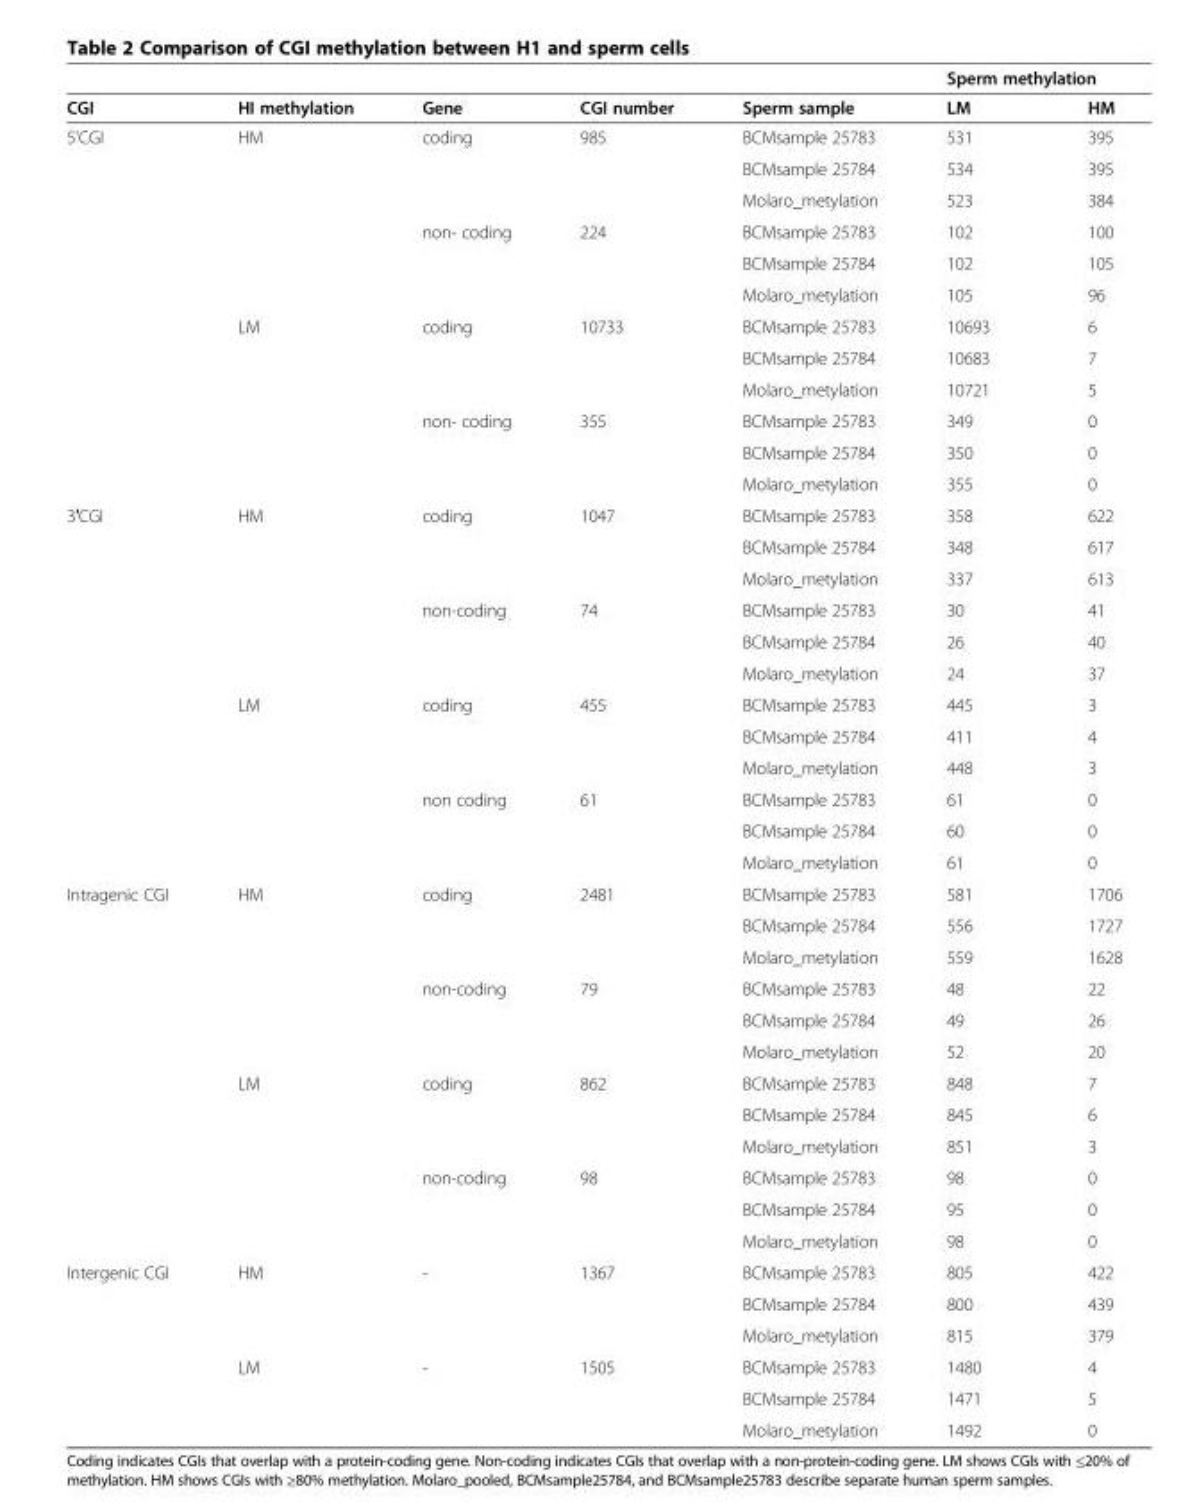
<table><thead><tr><td rowspan="2">CGI</td><td rowspan="2">HI methylation</td><td rowspan="2">Gene</td><td rowspan="2">CGI number</td><td rowspan="2">Sperm sample</td><td colspan="2">Sperm methylation</td></tr><tr><td>LM</td><td>HM</td></tr></thead><tbody><tr><td rowspan="12">5&#x27;CGI</td><td rowspan="6">HM</td><td rowspan="3">coding</td><td rowspan="3">985</td><td>BCMsample 25783</td><td>531</td><td>395</td></tr><tr><td>BCMsample 25784</td><td>534</td><td>395</td></tr><tr><td>Molaro_metylation</td><td>523</td><td>384</td></tr><tr><td rowspan="3">non- coding</td><td rowspan="3">224</td><td>BCMsample 25783</td><td>102</td><td>100</td></tr><tr><td>BCMsample 25784</td><td>102</td><td>105</td></tr><tr><td>Molaro_metylation</td><td>105</td><td>96</td></tr><tr><td rowspan="6">LM</td><td rowspan="3">coding</td><td rowspan="3">10733</td><td>BCMsample 25783</td><td>10693</td><td>6</td></tr><tr><td>BCMsample 25784</td><td>10683</td><td>7</td></tr><tr><td>Molaro_metylation</td><td>10721</td><td>5</td></tr><tr><td rowspan="3">non- coding</td><td rowspan="3">355</td><td>BCMsample 25783</td><td>349</td><td>0</td></tr><tr><td>BCMsample 25784</td><td>350</td><td>0</td></tr><tr><td>Molaro_metylation</td><td>355</td><td>0</td></tr><tr><td rowspan="12">3′CGI</td><td rowspan="6">HM</td><td rowspan="3">coding</td><td rowspan="3">1047</td><td>BCMsample 25783</td><td>358</td><td>622</td></tr><tr><td>BCMsample 25784</td><td>348</td><td>617</td></tr><tr><td>Molaro_metylation</td><td>337</td><td>613</td></tr><tr><td rowspan="3">non-coding</td><td rowspan="3">74</td><td>BCMsample 25783</td><td>30</td><td>41</td></tr><tr><td>BCMsample 25784</td><td>26</td><td>40</td></tr><tr><td>Molaro_metylation</td><td>24</td><td>37</td></tr><tr><td rowspan="6">LM</td><td rowspan="3">coding</td><td rowspan="3">455</td><td>BCMsample 25783</td><td>445</td><td>3</td></tr><tr><td>BCMsample 25784</td><td>411</td><td>4</td></tr><tr><td>Molaro_metylation</td><td>448</td><td>3</td></tr><tr><td rowspan="3">non coding</td><td rowspan="3">61</td><td>BCMsample 25783</td><td>61</td><td>0</td></tr><tr><td>BCMsample 25784</td><td>60</td><td>0</td></tr><tr><td>Molaro_metylation</td><td>61</td><td>0</td></tr><tr><td rowspan="12">Intragenic CGI</td><td rowspan="6">HM</td><td rowspan="3">coding</td><td rowspan="3">2481</td><td>BCMsample 25783</td><td>581</td><td>1706</td></tr><tr><td>BCMsample 25784</td><td>556</td><td>1727</td></tr><tr><td>Molaro_metylation</td><td>559</td><td>1628</td></tr><tr><td rowspan="3">non-coding</td><td rowspan="3">79</td><td>BCMsample 25783</td><td>48</td><td>22</td></tr><tr><td>BCMsample 25784</td><td>49</td><td>26</td></tr><tr><td>Molaro_metylation</td><td>52</td><td>20</td></tr><tr><td rowspan="6">LM</td><td rowspan="3">coding</td><td rowspan="3">862</td><td>BCMsample 25783</td><td>848</td><td>7</td></tr><tr><td>BCMsample 25784</td><td>845</td><td>6</td></tr><tr><td>Molaro_metylation</td><td>851</td><td>3</td></tr><tr><td rowspan="3">non-coding</td><td rowspan="3">98</td><td>BCMsample 25783</td><td>98</td><td>0</td></tr><tr><td>BCMsample 25784</td><td>95</td><td>0</td></tr><tr><td>Molaro_metylation</td><td>98</td><td>0</td></tr><tr><td rowspan="6">Intergenic CGI</td><td rowspan="3">HM</td><td rowspan="3">-</td><td rowspan="3">1367</td><td>BCMsample 25783</td><td>805</td><td>422</td></tr><tr><td>BCMsample 25784</td><td>800</td><td>439</td></tr><tr><td>Molaro_metylation</td><td>815</td><td>379</td></tr><tr><td rowspan="3">LM</td><td rowspan="3">-</td><td rowspan="3">1505</td><td>BCMsample 25783</td><td>1480</td><td>4</td></tr><tr><td>BCMsample 25784</td><td>1471</td><td>5</td></tr><tr><td>Molaro_metylation</td><td>1492</td><td>0</td></tr></tbody></table>